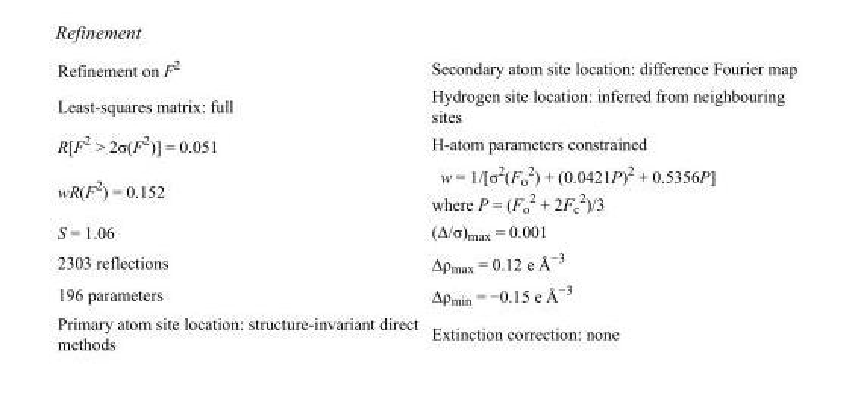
<table><tbody><tr><td>Refinement on F<sup>2</sup></td><td>Secondary atom site location: difference Fourier map</td></tr><tr><td>Least-squares matrix: full</td><td>Hydrogen site location: inferred from neighbouring sites</td></tr><tr><td>R[F<sup>2</sup> &gt; 2σ(F<sup>2</sup>)] = 0.051</td><td>H-atom parameters constrained</td></tr><tr><td>wR(F<sup>2</sup>) = 0.152</td><td>w = 1/[σ<sup>2</sup>(F<sub>o</sub> <sup>2</sup>) + (0.0421P)<sup>2</sup> + 0.5356P] where P = (F<sub>o</sub> <sup>2</sup> + 2F<sub>c</sub> <sup>2</sup>)/3</td></tr><tr><td>S = 1.06</td><td>(Δ/σ)<sub>max</sub> = 0.001</td></tr><tr><td>2303 reflections</td><td>Δρ<sub>max</sub> = 0.12 e Å<sup>−3</sup></td></tr><tr><td>196 parameters</td><td>Δρ<sub>min</sub> = −0.15 e Å<sup>−3</sup></td></tr><tr><td>Primary atom site location: structure-invariant direct methods</td><td>Extinction correction: none</td></tr></tbody></table>